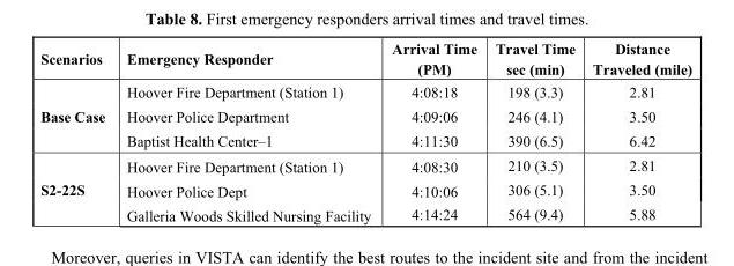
<table><thead><tr><td>Scenarios</td><td>Emergency Responder</td><td>Arrival Time (PM)</td><td>Travel Time sec (min)</td><td>Distance Traveled (mile)</td></tr></thead><tbody><tr><td rowspan="3">Base Case</td><td>Hoover Fire Department (Station 1)</td><td>4:08:18</td><td>198 (3.3)</td><td>2.81</td></tr><tr><td>Hoover Police Department</td><td>4:09:06</td><td>246 (4.1)</td><td>3.50</td></tr><tr><td>Baptist Health Center–1</td><td>4:11:30</td><td>390 (6.5)</td><td>6.42</td></tr><tr><td rowspan="3">S2-22S</td><td>Hoover Fire Department (Station 1)</td><td>4:08:30</td><td>210 (3.5)</td><td>2.81</td></tr><tr><td>Hoover Police Dept</td><td>4:10:06</td><td>306 (5.1)</td><td>3.50</td></tr><tr><td>Galleria Woods Skilled Nursing Facility</td><td>4:14:24</td><td>564 (9.4)</td><td>5.88</td></tr></tbody></table>